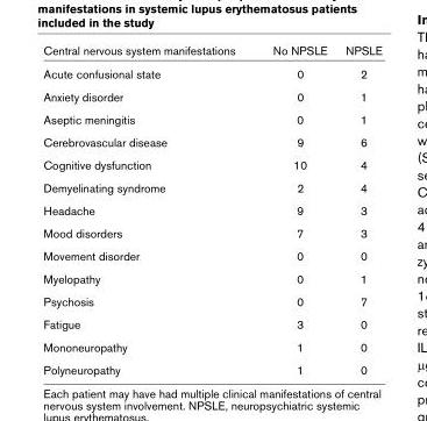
<table><thead><tr><td>Central nervous system manifestations</td><td>No NPSLE</td><td>NPSLE</td></tr></thead><tbody><tr><td>Acute confusional state</td><td>0</td><td>2</td></tr><tr><td>Anxiety disorder</td><td>0</td><td>1</td></tr><tr><td>Aseptic meningitis</td><td>0</td><td>1</td></tr><tr><td>Cerebrovascular disease</td><td>9</td><td>6</td></tr><tr><td>Cognitive dysfunction</td><td>10</td><td>4</td></tr><tr><td>Demyelinating syndrome</td><td>2</td><td>4</td></tr><tr><td>Headache</td><td>9</td><td>3</td></tr><tr><td>Mood disorders</td><td>7</td><td>3</td></tr><tr><td>Movement disorder</td><td>0</td><td>0</td></tr><tr><td>Myelopathy</td><td>0</td><td>1</td></tr><tr><td>Psychosis</td><td>0</td><td>7</td></tr><tr><td>Fatigue</td><td>3</td><td>0</td></tr><tr><td>Mononeuropathy</td><td>1</td><td>0</td></tr><tr><td>Polyneuropathy</td><td>1</td><td>0</td></tr></tbody></table>